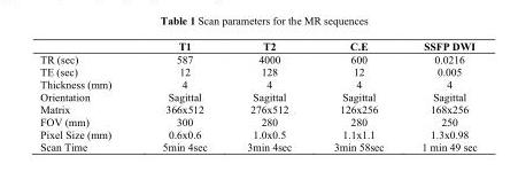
<table><thead><tr><td></td><td>T1</td><td>T2</td><td>C.E</td><td>SSFP DWI</td></tr></thead><tbody><tr><td>TR (sec)</td><td>587</td><td>4000</td><td>600</td><td>0.0216</td></tr><tr><td>TE (sec)</td><td>12</td><td>128</td><td>12</td><td>0.005</td></tr><tr><td>Thickness (mm)</td><td>4</td><td>4</td><td>4</td><td>4</td></tr><tr><td>Orientation</td><td>Sagittal</td><td>Sagittal</td><td>Sagittal</td><td>Sagittal</td></tr><tr><td>Matrix</td><td>366x512</td><td>276x512</td><td>126x256</td><td>168x256</td></tr><tr><td>FOV (mm)</td><td>300</td><td>280</td><td>280</td><td>250</td></tr><tr><td>Pixel Size (mm)</td><td>0.6x0.6</td><td>1.0x0.5</td><td>1.1x1.1</td><td>1.3x0.98</td></tr><tr><td>Scan Time</td><td>5min 4sec</td><td>3min 4sec</td><td>3min 58sec</td><td>1 min 49 sec</td></tr></tbody></table>